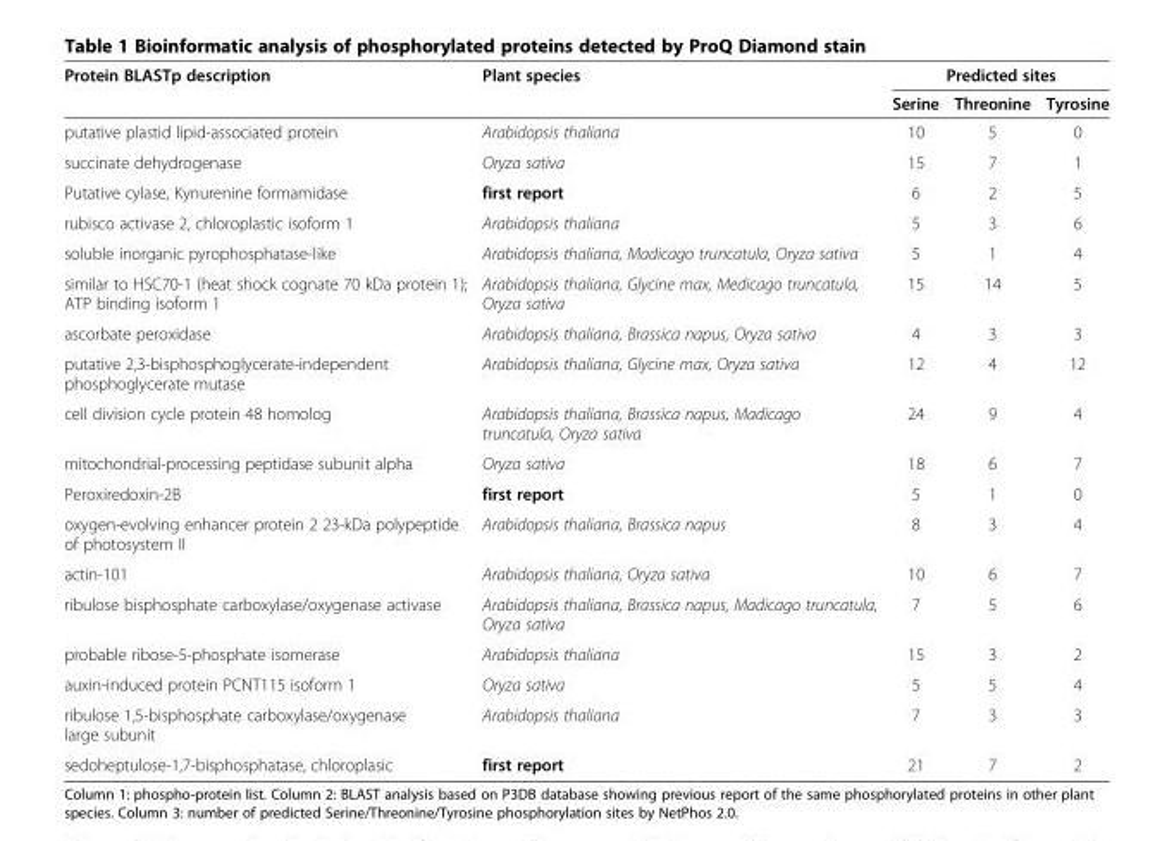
<table><thead><tr><td rowspan="2">Protein BLASTp description</td><td rowspan="2">Plant species</td><td colspan="3">Predicted sites</td></tr><tr><td>Serine</td><td>Threonine</td><td>Tyrosine</td></tr></thead><tbody><tr><td>putative plastid lipid-associated protein</td><td>Arabidopsis thaliana</td><td>10</td><td>5</td><td>0</td></tr><tr><td>succinate dehydrogenase</td><td>Oryza sativa</td><td>15</td><td>7</td><td>1</td></tr><tr><td>Putative cylase, Kynurenine formamidase</td><td>first report</td><td>6</td><td>2</td><td>5</td></tr><tr><td>rubisco activase 2, chloroplastic isoform 1</td><td>Arabidopsis thaliana</td><td>5</td><td>3</td><td>6</td></tr><tr><td>soluble inorganic pyrophosphatase-like</td><td>Arabidopsis thaliana, Madicago truncatula, Oryza sativa</td><td>5</td><td>1</td><td>4</td></tr><tr><td>similar to HSC70-1 (heat shock cognate 70 kDa protein 1); ATP binding isoform 1</td><td>Arabidopsis thaliana, Glycine max, Medicago truncatula, Oryza sativa</td><td>15</td><td>14</td><td>5</td></tr><tr><td>ascorbate peroxidase</td><td>Arabidopsis thaliana, Brassica napus, Oryza sativa</td><td>4</td><td>3</td><td>3</td></tr><tr><td>putative 2,3-bisphosphoglycerate-independent phosphoglycerate mutase</td><td>Arabidopsis thaliana, Glycine max, Oryza sativa</td><td>12</td><td>4</td><td>12</td></tr><tr><td>cell division cycle protein 48 homolog</td><td>Arabidopsis thaliana, Brassica napus, Madicago truncatula, Oryza sativa</td><td>24</td><td>9</td><td>4</td></tr><tr><td>mitochondrial-processing peptidase subunit alpha</td><td>Oryza sativa</td><td>18</td><td>6</td><td>7</td></tr><tr><td>Peroxiredoxin-2B</td><td>first report</td><td>5</td><td>1</td><td>0</td></tr><tr><td>oxygen-evolving enhancer protein 2 23-kDa polypeptide of photosystem II</td><td>Arabidopsis thaliana, Brassica napus</td><td>8</td><td>3</td><td>4</td></tr><tr><td>actin-101</td><td>Arabidopsis thaliana, Oryza sativa</td><td>10</td><td>6</td><td>7</td></tr><tr><td>ribulose bisphosphate carboxylase/oxygenase activase</td><td>Arabidopsis thaliana, Brassica napus, Madicago truncatula, Oryza sativa</td><td>7</td><td>5</td><td>6</td></tr><tr><td>probable ribose-5-phosphate isomerase</td><td>Arabidopsis thaliana</td><td>15</td><td>3</td><td>2</td></tr><tr><td>auxin-induced protein PCNT115 isoform 1</td><td>Oryza sativa</td><td>5</td><td>5</td><td>4</td></tr><tr><td>ribulose 1,5-bisphosphate carboxylase/oxygenase large subunit</td><td>Arabidopsis thaliana</td><td>7</td><td>3</td><td>3</td></tr><tr><td>sedoheptulose-1,7-bisphosphatase, chloroplasic</td><td>first report</td><td>21</td><td>7</td><td>2</td></tr></tbody></table>